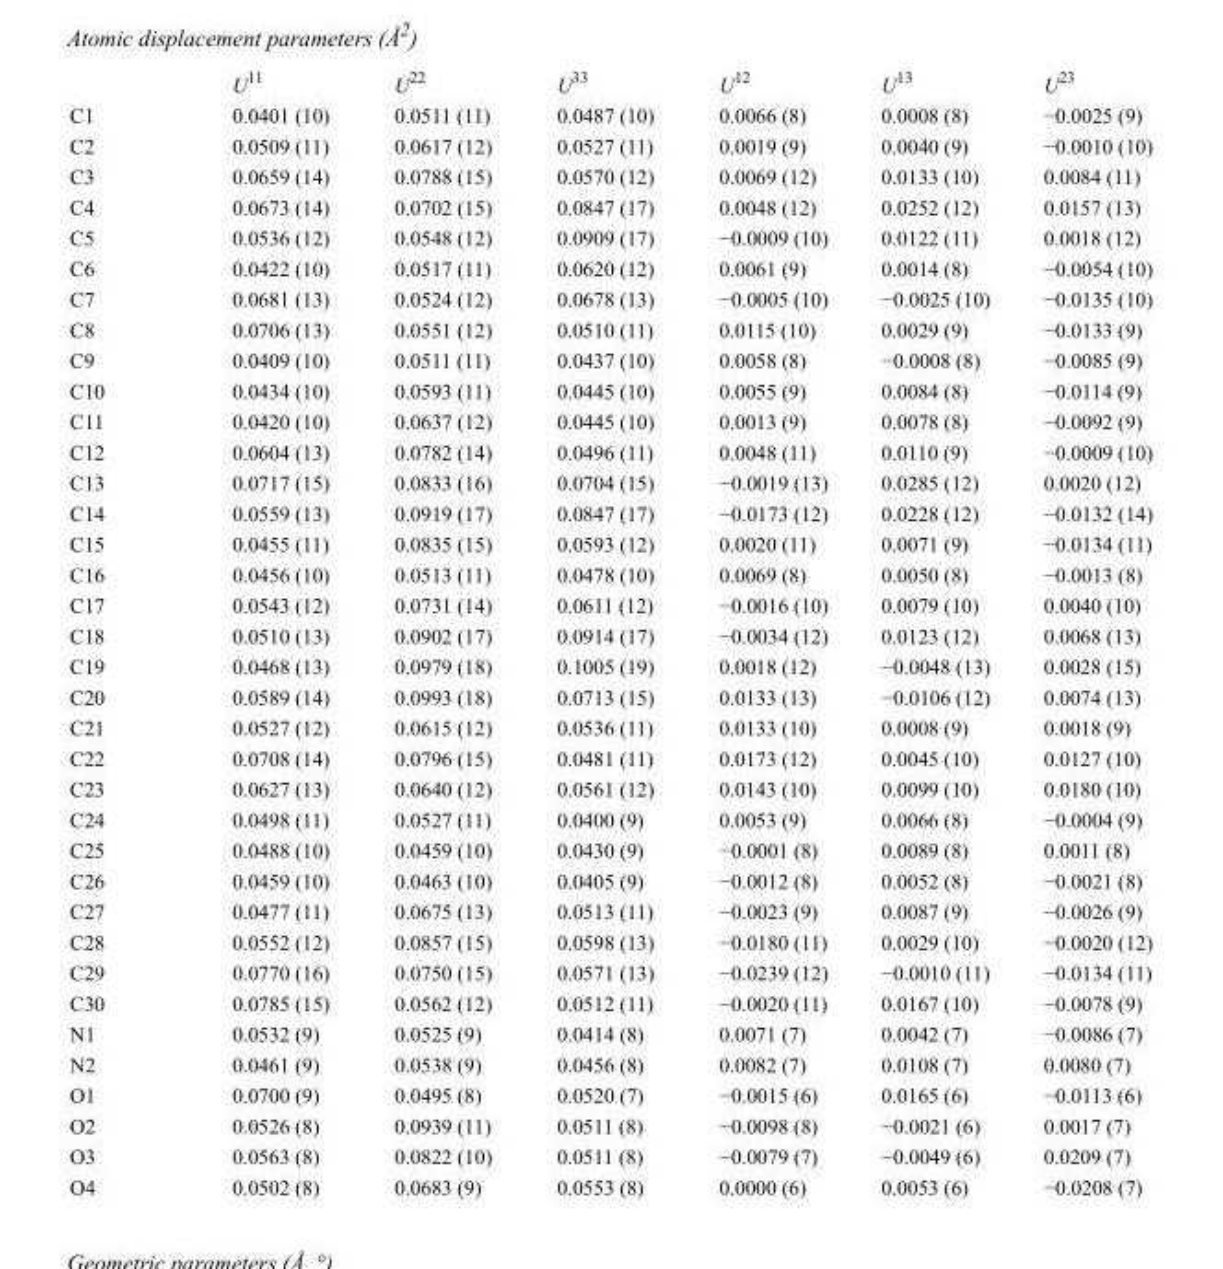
<table><thead><tr><td></td><td>U<sup>11</sup></td><td>U<sup>22</sup></td><td>U<sup>33</sup></td><td>U<sup>12</sup></td><td>U<sup>13</sup></td><td>U<sup>23</sup></td></tr></thead><tbody><tr><td>C1</td><td>0.0401 (10)</td><td>0.0511 (11)</td><td>0.0487 (10)</td><td>0.0066 (8)</td><td>0.0008 (8)</td><td>−0.0025 (9)</td></tr><tr><td>C2</td><td>0.0509 (11)</td><td>0.0617 (12)</td><td>0.0527 (11)</td><td>0.0019 (9)</td><td>0.0040 (9)</td><td>−0.0010 (10)</td></tr><tr><td>C3</td><td>0.0659 (14)</td><td>0.0788 (15)</td><td>0.0570 (12)</td><td>0.0069 (12)</td><td>0.0133 (10)</td><td>0.0084 (11)</td></tr><tr><td>C4</td><td>0.0673 (14)</td><td>0.0702 (15)</td><td>0.0847 (17)</td><td>0.0048 (12)</td><td>0.0252 (12)</td><td>0.0157 (13)</td></tr><tr><td>C5</td><td>0.0536 (12)</td><td>0.0548 (12)</td><td>0.0909 (17)</td><td>−0.0009 (10)</td><td>0.0122 (11)</td><td>0.0018 (12)</td></tr><tr><td>C6</td><td>0.0422 (10)</td><td>0.0517 (11)</td><td>0.0620 (12)</td><td>0.0061 (9)</td><td>0.0014 (8)</td><td>−0.0054 (10)</td></tr><tr><td>C7</td><td>0.0681 (13)</td><td>0.0524 (12)</td><td>0.0678 (13)</td><td>−0.0005 (10)</td><td>−0.0025 (10)</td><td>−0.0135 (10)</td></tr><tr><td>C8</td><td>0.0706 (13)</td><td>0.0551 (12)</td><td>0.0510 (11)</td><td>0.0115 (10)</td><td>0.0029 (9)</td><td>−0.0133 (9)</td></tr><tr><td>C9</td><td>0.0409 (10)</td><td>0.0511 (11)</td><td>0.0437 (10)</td><td>0.0058 (8)</td><td>−0.0008 (8)</td><td>−0.0085 (9)</td></tr><tr><td>C10</td><td>0.0434 (10)</td><td>0.0593 (11)</td><td>0.0445 (10)</td><td>0.0055 (9)</td><td>0.0084 (8)</td><td>−0.0114 (9)</td></tr><tr><td>C11</td><td>0.0420 (10)</td><td>0.0637 (12)</td><td>0.0445 (10)</td><td>0.0013 (9)</td><td>0.0078 (8)</td><td>−0.0092 (9)</td></tr><tr><td>C12</td><td>0.0604 (13)</td><td>0.0782 (14)</td><td>0.0496 (11)</td><td>0.0048 (11)</td><td>0.0110 (9)</td><td>−0.0009 (10)</td></tr><tr><td>C13</td><td>0.0717 (15)</td><td>0.0833 (16)</td><td>0.0704 (15)</td><td>−0.0019 (13)</td><td>0.0285 (12)</td><td>0.0020 (12)</td></tr><tr><td>C14</td><td>0.0559 (13)</td><td>0.0919 (17)</td><td>0.0847 (17)</td><td>−0.0173 (12)</td><td>0.0228 (12)</td><td>−0.0132 (14)</td></tr><tr><td>C15</td><td>0.0455 (11)</td><td>0.0835 (15)</td><td>0.0593 (12)</td><td>0.0020 (11)</td><td>0.0071 (9)</td><td>−0.0134 (11)</td></tr><tr><td>C16</td><td>0.0456 (10)</td><td>0.0513 (11)</td><td>0.0478 (10)</td><td>0.0069 (8)</td><td>0.0050 (8)</td><td>−0.0013 (8)</td></tr><tr><td>C17</td><td>0.0543 (12)</td><td>0.0731 (14)</td><td>0.0611 (12)</td><td>−0.0016 (10)</td><td>0.0079 (10)</td><td>0.0040 (10)</td></tr><tr><td>C18</td><td>0.0510 (13)</td><td>0.0902 (17)</td><td>0.0914 (17)</td><td>−0.0034 (12)</td><td>0.0123 (12)</td><td>0.0068 (13)</td></tr><tr><td>C19</td><td>0.0468 (13)</td><td>0.0979 (18)</td><td>0.1005 (19)</td><td>0.0018 (12)</td><td>−0.0048 (13)</td><td>0.0028 (15)</td></tr><tr><td>C20</td><td>0.0589 (14)</td><td>0.0993 (18)</td><td>0.0713 (15)</td><td>0.0133 (13)</td><td>−0.0106 (12)</td><td>0.0074 (13)</td></tr><tr><td>C21</td><td>0.0527 (12)</td><td>0.0615 (12)</td><td>0.0536 (11)</td><td>0.0133 (10)</td><td>0.0008 (9)</td><td>0.0018 (9)</td></tr><tr><td>C22</td><td>0.0708 (14)</td><td>0.0796 (15)</td><td>0.0481 (11)</td><td>0.0173 (12)</td><td>0.0045 (10)</td><td>0.0127 (10)</td></tr><tr><td>C23</td><td>0.0627 (13)</td><td>0.0640 (12)</td><td>0.0561 (12)</td><td>0.0143 (10)</td><td>0.0099 (10)</td><td>0.0180 (10)</td></tr><tr><td>C24</td><td>0.0498 (11)</td><td>0.0527 (11)</td><td>0.0400 (9)</td><td>0.0053 (9)</td><td>0.0066 (8)</td><td>−0.0004 (9)</td></tr><tr><td>C25</td><td>0.0488 (10)</td><td>0.0459 (10)</td><td>0.0430 (9)</td><td>−0.0001 (8)</td><td>0.0089 (8)</td><td>0.0011 (8)</td></tr><tr><td>C26</td><td>0.0459 (10)</td><td>0.0463 (10)</td><td>0.0405 (9)</td><td>−0.0012 (8)</td><td>0.0052 (8)</td><td>−0.0021 (8)</td></tr><tr><td>C27</td><td>0.0477 (11)</td><td>0.0675 (13)</td><td>0.0513 (11)</td><td>−0.0023 (9)</td><td>0.0087 (9)</td><td>−0.0026 (9)</td></tr><tr><td>C28</td><td>0.0552 (12)</td><td>0.0857 (15)</td><td>0.0598 (13)</td><td>−0.0180 (11)</td><td>0.0029 (10)</td><td>−0.0020 (12)</td></tr><tr><td>C29</td><td>0.0770 (16)</td><td>0.0750 (15)</td><td>0.0571 (13)</td><td>−0.0239 (12)</td><td>−0.0010 (11)</td><td>−0.0134 (11)</td></tr><tr><td>C30</td><td>0.0785 (15)</td><td>0.0562 (12)</td><td>0.0512 (11)</td><td>−0.0020 (11)</td><td>0.0167 (10)</td><td>−0.0078 (9)</td></tr><tr><td>N1</td><td>0.0532 (9)</td><td>0.0525 (9)</td><td>0.0414 (8)</td><td>0.0071 (7)</td><td>0.0042 (7)</td><td>−0.0086 (7)</td></tr><tr><td>N2</td><td>0.0461 (9)</td><td>0.0538 (9)</td><td>0.0456 (8)</td><td>0.0082 (7)</td><td>0.0108 (7)</td><td>0.0080 (7)</td></tr><tr><td>O1</td><td>0.0700 (9)</td><td>0.0495 (8)</td><td>0.0520 (7)</td><td>−0.0015 (6)</td><td>0.0165 (6)</td><td>−0.0113 (6)</td></tr><tr><td>O2</td><td>0.0526 (8)</td><td>0.0939 (11)</td><td>0.0511 (8)</td><td>−0.0098 (8)</td><td>−0.0021 (6)</td><td>0.0017 (7)</td></tr><tr><td>O3</td><td>0.0563 (8)</td><td>0.0822 (10)</td><td>0.0511 (8)</td><td>−0.0079 (7)</td><td>−0.0049 (6)</td><td>0.0209 (7)</td></tr><tr><td>O4</td><td>0.0502 (8)</td><td>0.0683 (9)</td><td>0.0553 (8)</td><td>0.0000 (6)</td><td>0.0053 (6)</td><td>−0.0208 (7)</td></tr></tbody></table>